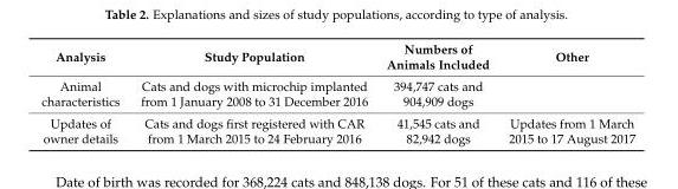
<table><thead><tr><td>Analysis</td><td>Study Population</td><td>Numbers of Animals Included</td><td>Other</td></tr></thead><tbody><tr><td>Animal characteristics</td><td>Cats and dogs with microchip implanted from 1 January 2008 to 31 December 2016</td><td>394,747 cats and 904,909 dogs</td><td></td></tr><tr><td>Updates of owner details</td><td>Cats and dogs first registered with CAR from 1 March 2015 to 24 February 2016</td><td>41,545 cats and 82,942 dogs</td><td>Updates from 1 March 2015 to 17 August 2017</td></tr></tbody></table>